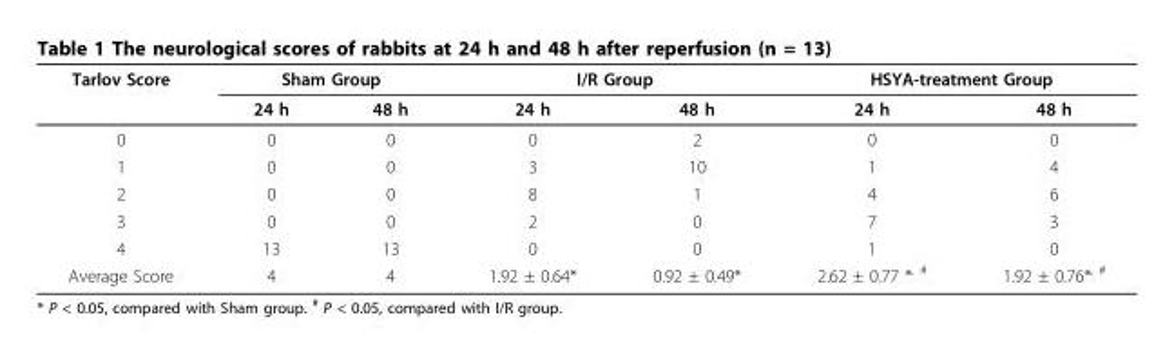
<table><thead><tr><td rowspan="2">Tarlov Score</td><td colspan="2">Sham Group</td><td colspan="2">I/R Group</td><td colspan="2">HSYA-treatment Group</td></tr><tr><td>24 h</td><td>48 h</td><td>24 h</td><td>48 h</td><td>24 h</td><td>48 h</td></tr></thead><tbody><tr><td>0</td><td>0</td><td>0</td><td>0</td><td>2</td><td>0</td><td>0</td></tr><tr><td>1</td><td>0</td><td>0</td><td>3</td><td>10</td><td>1</td><td>4</td></tr><tr><td>2</td><td>0</td><td>0</td><td>8</td><td>1</td><td>4</td><td>6</td></tr><tr><td>3</td><td>0</td><td>0</td><td>2</td><td>0</td><td>7</td><td>3</td></tr><tr><td>4</td><td>13</td><td>13</td><td>0</td><td>0</td><td>1</td><td>0</td></tr><tr><td>Average Score</td><td>4</td><td>4</td><td>1.92 ± 0.64*</td><td>0.92 ± 0.49*</td><td>2.62 ± 0.77 *<sup>, #</sup></td><td>1.92 ± 0.76*<sup>, #</sup></td></tr></tbody></table>